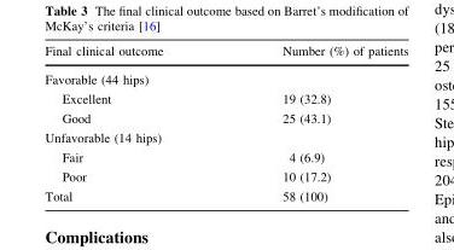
<table><thead><tr><td>Final clinical outcome</td><td>Number (%) of patients</td></tr></thead><tbody><tr><td colspan="2">Favorable (44 hips)</td></tr><tr><td>Excellent</td><td>19 (32.8)</td></tr><tr><td>Good</td><td>25 (43.1)</td></tr><tr><td colspan="2">Unfavorable (14 hips)</td></tr><tr><td>Fair</td><td>4 (6.9)</td></tr><tr><td>Poor</td><td>10 (17.2)</td></tr><tr><td>Total</td><td>58 (100)</td></tr></tbody></table>